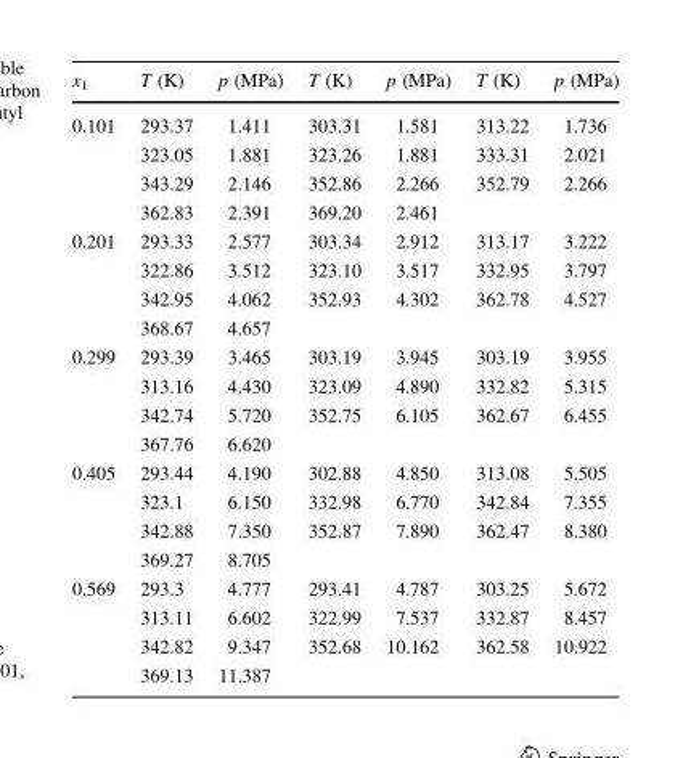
<table><thead><tr><td>x<sub>1</sub></td><td>T (K)</td><td>p (MPa)</td><td>T (K)</td><td>p (MPa)</td><td>T (K)</td><td>p (MPa)</td></tr></thead><tbody><tr><td rowspan="4">0.101</td><td>293.37</td><td>1.411</td><td>303.31</td><td>1.581</td><td>313.22</td><td>1.736</td></tr><tr><td>323.05</td><td>1.881</td><td>323.26</td><td>1.881</td><td>333.31</td><td>2.021</td></tr><tr><td>343.29</td><td>2.146</td><td>352.86</td><td>2.266</td><td>352.79</td><td>2.266</td></tr><tr><td>362.83</td><td>2.391</td><td>369.20</td><td>2.461</td><td></td><td></td></tr><tr><td rowspan="4">0.201</td><td>293.33</td><td>2.577</td><td>303.34</td><td>2.912</td><td>313.17</td><td>3.222</td></tr><tr><td>322.86</td><td>3.512</td><td>323.10</td><td>3.517</td><td>332.95</td><td>3.797</td></tr><tr><td>342.95</td><td>4.062</td><td>352.93</td><td>4.302</td><td>362.78</td><td>4.527</td></tr><tr><td>368.67</td><td>4.657</td><td></td><td></td><td></td><td></td></tr><tr><td rowspan="4">0.299</td><td>293.39</td><td>3.465</td><td>303.19</td><td>3.945</td><td>303.19</td><td>3.955</td></tr><tr><td>313.16</td><td>4.430</td><td>323.09</td><td>4.890</td><td>332.82</td><td>5.315</td></tr><tr><td>342.74</td><td>5.720</td><td>352.75</td><td>6.105</td><td>362.67</td><td>6.455</td></tr><tr><td>367.76</td><td>6.620</td><td></td><td></td><td></td><td></td></tr><tr><td rowspan="4">0.405</td><td>293.44</td><td>4.190</td><td>302.88</td><td>4.850</td><td>313.08</td><td>5.505</td></tr><tr><td>323.1</td><td>6.150</td><td>332.98</td><td>6.770</td><td>342.84</td><td>7.355</td></tr><tr><td>342.88</td><td>7.350</td><td>352.87</td><td>7.890</td><td>362.47</td><td>8.380</td></tr><tr><td>369.27</td><td>8.705</td><td></td><td></td><td></td><td></td></tr><tr><td rowspan="4">0.569</td><td>293.3</td><td>4.777</td><td>293.41</td><td>4.787</td><td>303.25</td><td>5.672</td></tr><tr><td>313.11</td><td>6.602</td><td>322.99</td><td>7.537</td><td>332.87</td><td>8.457</td></tr><tr><td>342.82</td><td>9.347</td><td>352.68</td><td>10.162</td><td>362.58</td><td>10.922</td></tr><tr><td>369.13</td><td>11.387</td><td></td><td></td><td></td><td></td></tr></tbody></table>